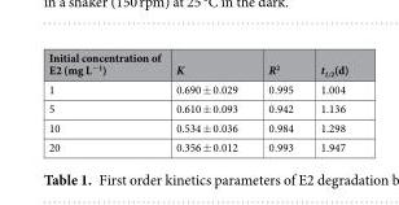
<table><thead><tr><td>Initial concentration of E2 (mg L<sup>−1</sup>)</td><td>K</td><td>R<sup>2</sup></td><td>t<sub>1/2</sub>(d)</td></tr></thead><tbody><tr><td>1</td><td>0.690 ± 0.029</td><td>0.995</td><td>1.004</td></tr><tr><td>5</td><td>0.610 ± 0.093</td><td>0.942</td><td>1.136</td></tr><tr><td>10</td><td>0.534 ± 0.036</td><td>0.984</td><td>1.298</td></tr><tr><td>20</td><td>0.356 ± 0.012</td><td>0.993</td><td>1.947</td></tr></tbody></table>